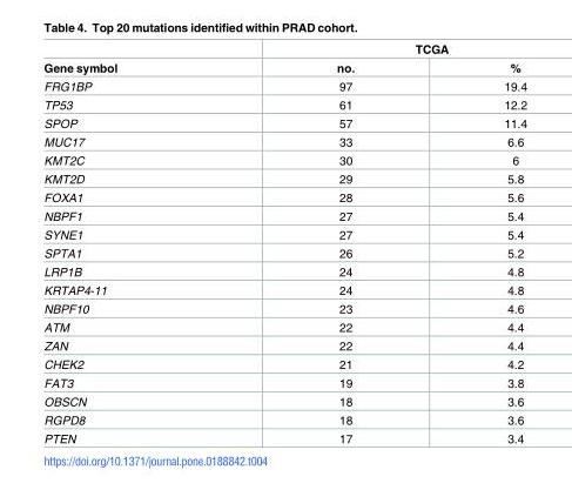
<table><thead><tr><td rowspan="2">Gene symbol</td><td colspan="2">TCGA</td></tr><tr><td>no.</td><td>%</td></tr></thead><tbody><tr><td>FRG1BP</td><td>97</td><td>19.4</td></tr><tr><td>TP53</td><td>61</td><td>12.2</td></tr><tr><td>SPOP</td><td>57</td><td>11.4</td></tr><tr><td>MUC17</td><td>33</td><td>6.6</td></tr><tr><td>KMT2C</td><td>30</td><td>6</td></tr><tr><td>KMT2D</td><td>29</td><td>5.8</td></tr><tr><td>FOXA1</td><td>28</td><td>5.6</td></tr><tr><td>NBPF1</td><td>27</td><td>5.4</td></tr><tr><td>SYNE1</td><td>27</td><td>5.4</td></tr><tr><td>SPTA1</td><td>26</td><td>5.2</td></tr><tr><td>LRP1B</td><td>24</td><td>4.8</td></tr><tr><td>KRTAP4-11</td><td>24</td><td>4.8</td></tr><tr><td>NBPF10</td><td>23</td><td>4.6</td></tr><tr><td>ATM</td><td>22</td><td>4.4</td></tr><tr><td>ZAN</td><td>22</td><td>4.4</td></tr><tr><td>CHEK2</td><td>21</td><td>4.2</td></tr><tr><td>FAT3</td><td>19</td><td>3.8</td></tr><tr><td>OBSCN</td><td>18</td><td>3.6</td></tr><tr><td>RGPD8</td><td>18</td><td>3.6</td></tr><tr><td>PTEN</td><td>17</td><td>3.4</td></tr></tbody></table>